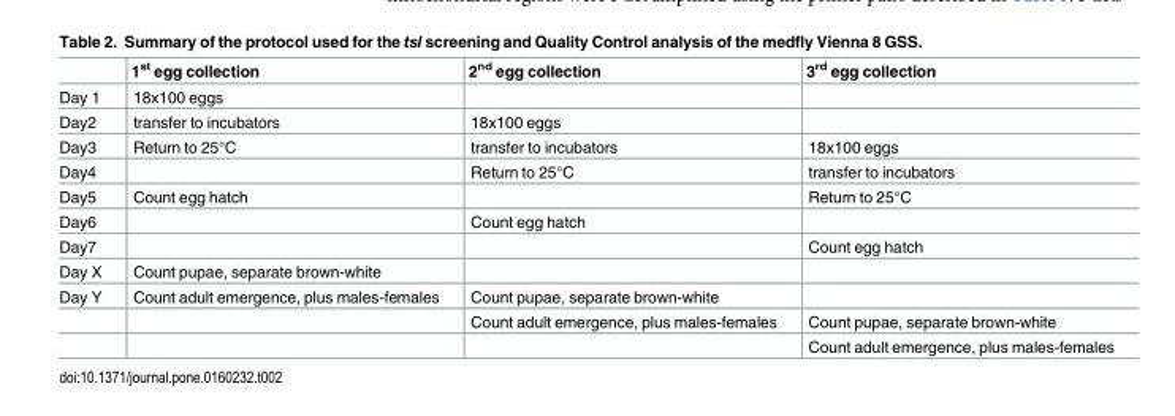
<table><thead><tr><td></td><td>1<sup>st</sup> egg collection</td><td>2<sup>nd</sup> egg collection</td><td>3<sup>rd</sup> egg collection</td></tr></thead><tbody><tr><td>Day 1</td><td>18x100 eggs</td><td></td><td></td></tr><tr><td>Day2</td><td>transfer to incubators</td><td>18x100 eggs</td><td></td></tr><tr><td>Day3</td><td>Return to 25°C</td><td>transfer to incubators</td><td>18x100 eggs</td></tr><tr><td>Day4</td><td></td><td>Return to 25°C</td><td>transfer to incubators</td></tr><tr><td>Day5</td><td>Count egg hatch</td><td></td><td>Return to 25°C</td></tr><tr><td>Day6</td><td></td><td>Count egg hatch</td><td></td></tr><tr><td>Day7</td><td></td><td></td><td>Count egg hatch</td></tr><tr><td>Day X</td><td>Count pupae, separate brown-white</td><td></td><td></td></tr><tr><td rowspan="3">Day Y</td><td>Count adult emergence, plus males-females</td><td>Count pupae, separate brown-white</td><td></td></tr><tr><td></td><td>Count adult emergence, plus males-females</td><td>Count pupae, separate brown-white</td></tr><tr><td></td><td></td><td>Count adult emergence, plus males-females</td></tr></tbody></table>